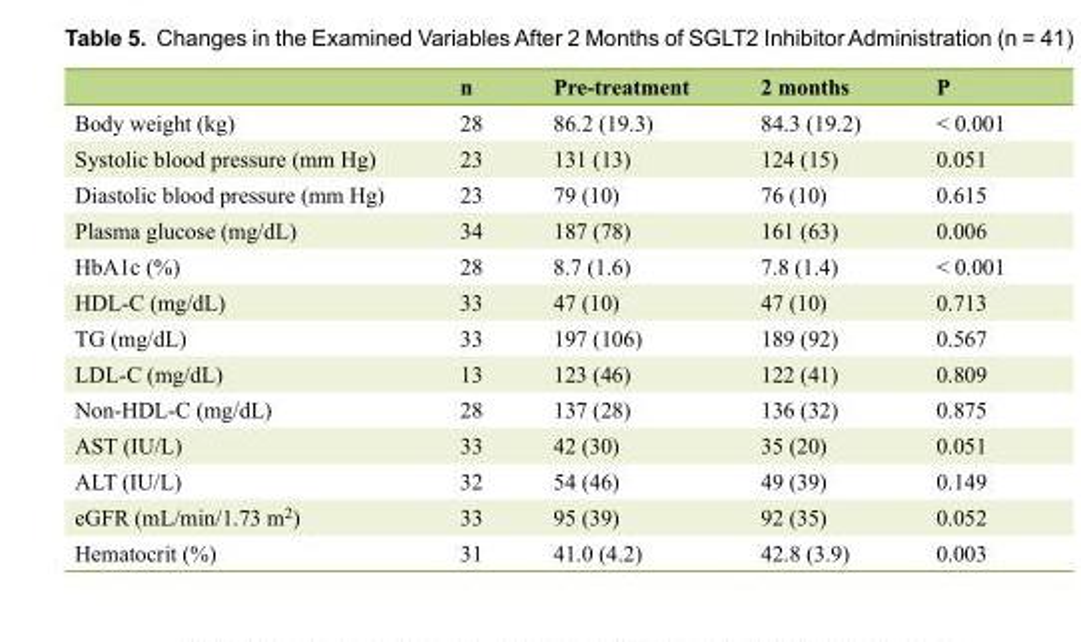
<table><thead><tr><td></td><td>n</td><td>Pre-treatment</td><td>2 months</td><td>P</td></tr></thead><tbody><tr><td>Body weight (kg)</td><td>28</td><td>86.2 (19.3)</td><td>84.3 (19.2)</td><td>&lt; 0.001</td></tr><tr><td>Systolic blood pressure (mm Hg)</td><td>23</td><td>131 (13)</td><td>124 (15)</td><td>0.051</td></tr><tr><td>Diastolic blood pressure (mm Hg)</td><td>23</td><td>79 (10)</td><td>76 (10)</td><td>0.615</td></tr><tr><td>Plasma glucose (mg/dL)</td><td>34</td><td>187 (78)</td><td>161 (63)</td><td>0.006</td></tr><tr><td>HbA1c (%)</td><td>28</td><td>8.7 (1.6)</td><td>7.8 (1.4)</td><td>&lt; 0.001</td></tr><tr><td>HDL-C (mg/dL)</td><td>33</td><td>47 (10)</td><td>47 (10)</td><td>0.713</td></tr><tr><td>TG (mg/dL)</td><td>33</td><td>197 (106)</td><td>189 (92)</td><td>0.567</td></tr><tr><td>LDL-C (mg/dL)</td><td>13</td><td>123 (46)</td><td>122 (41)</td><td>0.809</td></tr><tr><td>Non-HDL-C (mg/dL)</td><td>28</td><td>137 (28)</td><td>136 (32)</td><td>0.875</td></tr><tr><td>AST (IU/L)</td><td>33</td><td>42 (30)</td><td>35 (20)</td><td>0.051</td></tr><tr><td>ALT (IU/L)</td><td>32</td><td>54 (46)</td><td>49 (39)</td><td>0.149</td></tr><tr><td>eGFR (mL/min/1.73 m<sup>2</sup>)</td><td>33</td><td>95 (39)</td><td>92 (35)</td><td>0.052</td></tr><tr><td>Hematocrit (%)</td><td>31</td><td>41.0 (4.2)</td><td>42.8 (3.9)</td><td>0.003</td></tr></tbody></table>